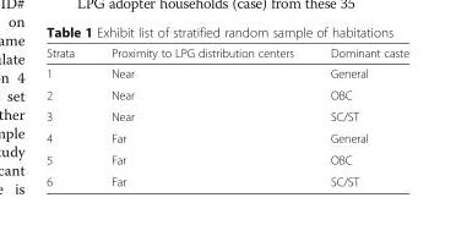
<table><thead><tr><td>Strata</td><td>Proximity to LPG distribution centers</td><td>Dominant caste</td></tr></thead><tbody><tr><td>1</td><td>Near</td><td>General</td></tr><tr><td>2</td><td>Near</td><td>OBC</td></tr><tr><td>3</td><td>Near</td><td>SC/ST</td></tr><tr><td>4</td><td>Far</td><td>General</td></tr><tr><td>5</td><td>Far</td><td>OBC</td></tr><tr><td>6</td><td>Far</td><td>SC/ST</td></tr></tbody></table>